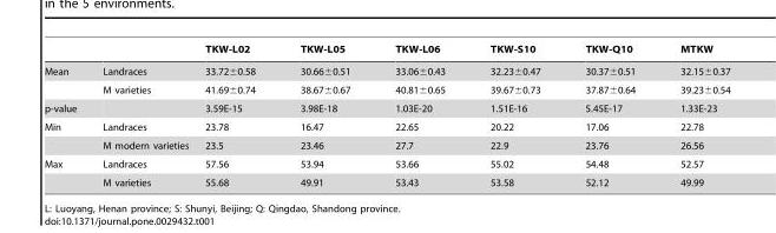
<table><thead><tr><td></td><td></td><td>TKW-L02</td><td>TKW-L05</td><td>TKW-L06</td><td>TKW-S10</td><td>TKW-Q10</td><td>MTKW</td></tr></thead><tbody><tr><td rowspan="2">Mean</td><td>Landraces</td><td>33.72±0.58</td><td>30.66±0.51</td><td>33.06±0.43</td><td>32.23±0.47</td><td>30.37±0.51</td><td>32.15±0.37</td></tr><tr><td>M varieties</td><td>41.69±0.74</td><td>38.67±0.67</td><td>40.81±0.65</td><td>39.67±0.73</td><td>37.87±0.64</td><td>39.23±0.54</td></tr><tr><td>p-value</td><td></td><td>3.59E-15</td><td>3.98E-18</td><td>1.03E-20</td><td>1.51E-16</td><td>5.45E-17</td><td>1.33E-23</td></tr><tr><td rowspan="2">Min</td><td>Landraces</td><td>23.78</td><td>16.47</td><td>22.65</td><td>20.22</td><td>17.06</td><td>22.78</td></tr><tr><td>M modern varieties</td><td>23.5</td><td>23.46</td><td>27.7</td><td>22.9</td><td>23.76</td><td>26.56</td></tr><tr><td rowspan="2">Max</td><td>Landraces</td><td>57.56</td><td>53.94</td><td>53.66</td><td>55.02</td><td>54.48</td><td>52.57</td></tr><tr><td>M varieties</td><td>55.68</td><td>49.91</td><td>53.43</td><td>53.58</td><td>52.12</td><td>49.99</td></tr></tbody></table>